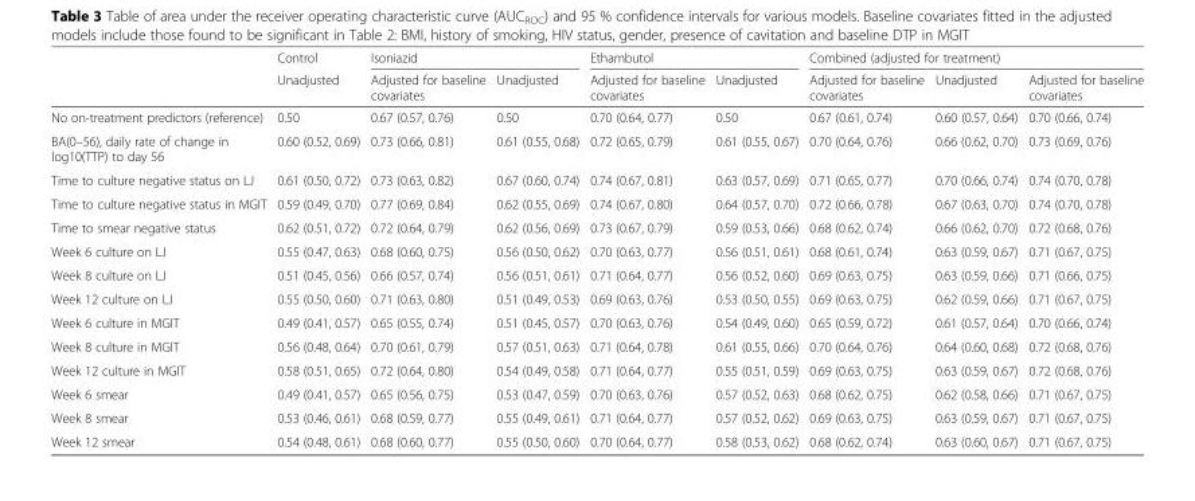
<table><thead><tr><td rowspan="2"></td><td rowspan="2">Control Unadjusted</td><td colspan="2">Isoniazid</td><td colspan="2">Ethambutol</td><td colspan="3">Combined (adjusted for treatment)</td></tr><tr><td>Adjusted for baseline covariates</td><td>Unadjusted</td><td>Adjusted for baseline covariates</td><td>Unadjusted</td><td>Adjusted for baseline covariates</td><td>Unadjusted</td><td>Adjusted for baseline covariates</td></tr></thead><tbody><tr><td>No on-treatment predictors (reference)</td><td>0.50</td><td>0.67 (0.57, 0.76)</td><td>0.50</td><td>0.70 (0.64, 0.77)</td><td>0.50</td><td>0.67 (0.61, 0.74)</td><td>0.60 (0.57, 0.64)</td><td>0.70 (0.66, 0.74)</td></tr><tr><td>BA(0–56), daily rate of change in log10(TTP) to day 56</td><td>0.60 (0.52, 0.69)</td><td>0.73 (0.66, 0.81)</td><td>0.61 (0.55, 0.68)</td><td>0.72 (0.65, 0.79)</td><td>0.61 (0.55, 0.67)</td><td>0.70 (0.64, 0.76)</td><td>0.66 (0.62, 0.70)</td><td>0.73 (0.69, 0.76)</td></tr><tr><td>Time to culture negative status on LJ</td><td>0.61 (0.50, 0.72)</td><td>0.73 (0.63, 0.82)</td><td>0.67 (0.60, 0.74)</td><td>0.74 (0.67, 0.81)</td><td>0.63 (0.57, 0.69)</td><td>0.71 (0.65, 0.77)</td><td>0.70 (0.66, 0.74)</td><td>0.74 (0.70, 0.78)</td></tr><tr><td>Time to culture negative status in MGIT</td><td>0.59 (0.49, 0.70)</td><td>0.77 (0.69, 0.84)</td><td>0.62 (0.55, 0.69)</td><td>0.74 (0.67, 0.80)</td><td>0.64 (0.57, 0.70)</td><td>0.72 (0.66, 0.78)</td><td>0.67 (0.63, 0.70)</td><td>0.74 (0.70, 0.78)</td></tr><tr><td>Time to smear negative status</td><td>0.62 (0.51, 0.72)</td><td>0.72 (0.64, 0.79)</td><td>0.62 (0.56, 0.69)</td><td>0.73 (0.67, 0.79)</td><td>0.59 (0.53, 0.66)</td><td>0.68 (0.62, 0.74)</td><td>0.66 (0.62, 0.70)</td><td>0.72 (0.68, 0.76)</td></tr><tr><td>Week 6 culture on LJ</td><td>0.55 (0.47, 0.63)</td><td>0.68 (0.60, 0.75)</td><td>0.56 (0.50, 0.62)</td><td>0.70 (0.63, 0.77)</td><td>0.56 (0.51, 0.61)</td><td>0.68 (0.61, 0.74)</td><td>0.63 (0.59, 0.67)</td><td>0.71 (0.67, 0.75)</td></tr><tr><td>Week 8 culture on LJ</td><td>0.51 (0.45, 0.56)</td><td>0.66 (0.57, 0.74)</td><td>0.56 (0.51, 0.61)</td><td>0.71 (0.64, 0.77)</td><td>0.56 (0.52, 0.60)</td><td>0.69 (0.63, 0.75)</td><td>0.63 (0.59, 0.66)</td><td>0.71 (0.66, 0.75)</td></tr><tr><td>Week 12 culture on LJ</td><td>0.55 (0.50, 0.60)</td><td>0.71 (0.63, 0.80)</td><td>0.51 (0.49, 0.53)</td><td>0.69 (0.63, 0.76)</td><td>0.53 (0.50, 0.55)</td><td>0.69 (0.63, 0.75)</td><td>0.62 (0.59, 0.66)</td><td>0.71 (0.67, 0.75)</td></tr><tr><td>Week 6 culture in MGIT</td><td>0.49 (0.41, 0.57)</td><td>0.65 (0.55, 0.74)</td><td>0.51 (0.45, 0.57)</td><td>0.70 (0.63, 0.76)</td><td>0.54 (0.49, 0.60)</td><td>0.65 (0.59, 0.72)</td><td>0.61 (0.57, 0.64)</td><td>0.70 (0.66, 0.74)</td></tr><tr><td>Week 8 culture in MGIT</td><td>0.56 (0.48, 0.64)</td><td>0.70 (0.61, 0.79)</td><td>0.57 (0.51, 0.63)</td><td>0.71 (0.64, 0.78)</td><td>0.61 (0.55, 0.66)</td><td>0.70 (0.64, 0.76)</td><td>0.64 (0.60, 0.68)</td><td>0.72 (0.68, 0.76)</td></tr><tr><td>Week 12 culture in MGIT</td><td>0.58 (0.51, 0.65)</td><td>0.72 (0.64, 0.80)</td><td>0.54 (0.49, 0.58)</td><td>0.71 (0.64, 0.77)</td><td>0.55 (0.51, 0.59)</td><td>0.69 (0.63, 0.75)</td><td>0.63 (0.59, 0.67)</td><td>0.72 (0.68, 0.76)</td></tr><tr><td>Week 6 smear</td><td>0.49 (0.41, 0.57)</td><td>0.65 (0.56, 0.75)</td><td>0.53 (0.47, 0.59)</td><td>0.70 (0.63, 0.76)</td><td>0.57 (0.52, 0.63)</td><td>0.68 (0.62, 0.75)</td><td>0.62 (0.58, 0.66)</td><td>0.71 (0.67, 0.75)</td></tr><tr><td>Week 8 smear</td><td>0.53 (0.46, 0.61)</td><td>0.68 (0.59, 0.77)</td><td>0.55 (0.49, 0.61)</td><td>0.71 (0.64, 0.77)</td><td>0.57 (0.52, 0.62)</td><td>0.69 (0.63, 0.75)</td><td>0.63 (0.59, 0.67)</td><td>0.71 (0.67, 0.75)</td></tr><tr><td>Week 12 smear</td><td>0.54 (0.48, 0.61)</td><td>0.68 (0.60, 0.77)</td><td>0.55 (0.50, 0.60)</td><td>0.70 (0.64, 0.77)</td><td>0.58 (0.53, 0.62)</td><td>0.68 (0.62, 0.74)</td><td>0.63 (0.60, 0.67)</td><td>0.71 (0.67, 0.75)</td></tr></tbody></table>